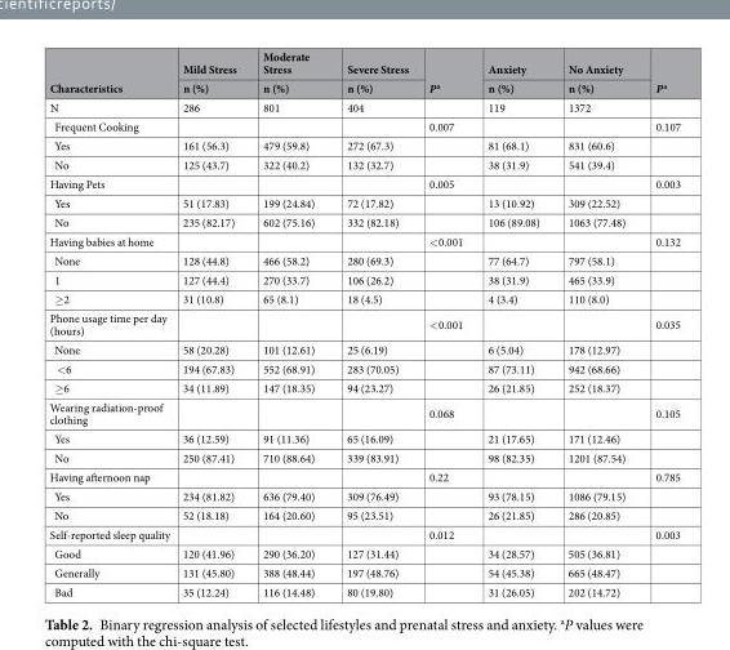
<table><thead><tr><td rowspan="2">Characteristics</td><td rowspan="2">Mild Stress n (%)</td><td rowspan="2">Moderate Stress n (%)</td><td rowspan="2">Severe Stress n (%)</td><td rowspan="2">P <sup>a</sup></td><td rowspan="2">Anxiety n (%)</td><td rowspan="2">No Anxiety n (%)</td><td rowspan="2">P <sup>a</sup></td></tr><tr></tr></thead><tbody><tr><td>N</td><td>286</td><td>801</td><td>404</td><td></td><td>119</td><td>1372</td><td></td></tr><tr><td>Frequent Cooking</td><td></td><td></td><td></td><td>0.007</td><td></td><td></td><td>0.107</td></tr><tr><td>Yes</td><td>161 (56.3)</td><td>479 (59.8)</td><td>272 (67.3)</td><td></td><td>81 (68.1)</td><td>831 (60.6)</td><td></td></tr><tr><td>No</td><td>125 (43.7)</td><td>322 (40.2)</td><td>132 (32.7)</td><td></td><td>38 (31.9)</td><td>541 (39.4)</td><td></td></tr><tr><td>Having Pets</td><td></td><td></td><td></td><td>0.005</td><td></td><td></td><td>0.003</td></tr><tr><td>Yes</td><td>51 (17.83)</td><td>199 (24.84)</td><td>72 (17.82)</td><td></td><td>13 (10.92)</td><td>309 (22.52)</td><td></td></tr><tr><td>No</td><td>235 (82.17)</td><td>602 (75.16)</td><td>332 (82.18)</td><td></td><td>106 (89.08)</td><td>1063 (77.48)</td><td></td></tr><tr><td>Having babies at home</td><td></td><td></td><td></td><td>&lt;0.001</td><td></td><td></td><td>0.132</td></tr><tr><td>None</td><td>128 (44.8)</td><td>466 (58.2)</td><td>280 (69.3)</td><td></td><td>77 (64.7)</td><td>797 (58.1)</td><td></td></tr><tr><td>1</td><td>127 (44.4)</td><td>270 (33.7)</td><td>106 (26.2)</td><td></td><td>38 (31.9)</td><td>465 (33.9)</td><td></td></tr><tr><td>≥2</td><td>31 (10.8)</td><td>65 (8.1)</td><td>18 (4.5)</td><td></td><td>4 (3.4)</td><td>110 (8.0)</td><td></td></tr><tr><td>Phone usage time per day (hours)</td><td></td><td></td><td></td><td>&lt;0.001</td><td></td><td></td><td>0.035</td></tr><tr><td>None</td><td>58 (20.28)</td><td>101 (12.61)</td><td>25 (6.19)</td><td></td><td>6 (5.04)</td><td>178 (12.97)</td><td></td></tr><tr><td>&lt;6</td><td>194 (67.83)</td><td>552 (68.91)</td><td>283 (70.05)</td><td></td><td>87 (73.11)</td><td>942 (68.66)</td><td></td></tr><tr><td>≥6</td><td>34 (11.89)</td><td>147 (18.35)</td><td>94 (23.27)</td><td></td><td>26 (21.85)</td><td>252 (18.37)</td><td></td></tr><tr><td>Wearing radiation-proof clothing</td><td></td><td></td><td></td><td>0.068</td><td></td><td></td><td>0.105</td></tr><tr><td>Yes</td><td>36 (12.59)</td><td>91 (11.36)</td><td>65 (16.09)</td><td></td><td>21 (17.65)</td><td>171 (12.46)</td><td></td></tr><tr><td>No</td><td>250 (87.41)</td><td>710 (88.64)</td><td>339 (83.91)</td><td></td><td>98 (82.35)</td><td>1201 (87.54)</td><td></td></tr><tr><td>Having afternoon nap</td><td></td><td></td><td></td><td>0.22</td><td></td><td></td><td>0.785</td></tr><tr><td>Yes</td><td>234 (81.82)</td><td>636 (79.40)</td><td>309 (76.49)</td><td></td><td>93 (78.15)</td><td>1086 (79.15)</td><td></td></tr><tr><td>No</td><td>52 (18.18)</td><td>164 (20.60)</td><td>95 (23.51)</td><td></td><td>26 (21.85)</td><td>286 (20.85)</td><td></td></tr><tr><td>Self-reported sleep quality</td><td></td><td></td><td></td><td>0.012</td><td></td><td></td><td>0.003</td></tr><tr><td>Good</td><td>120 (41.96)</td><td>290 (36.20)</td><td>127 (31.44)</td><td></td><td>34 (28.57)</td><td>505 (36.81)</td><td></td></tr><tr><td>Generally</td><td>131 (45.80)</td><td>388 (48.44)</td><td>197 (48.76)</td><td></td><td>54 (45.38)</td><td>665 (48.47)</td><td></td></tr><tr><td>Bad</td><td>35 (12.24)</td><td>116 (14.48)</td><td>80 (19.80)</td><td></td><td>31 (26.05)</td><td>202 (14.72)</td><td></td></tr></tbody></table>